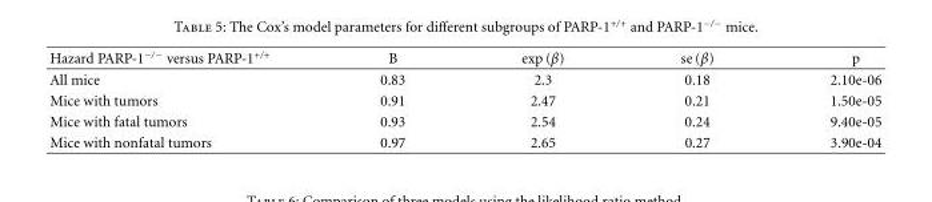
<table><thead><tr><td>Hazard PARP-1<sup>−/−</sup> versus PARP-1<sup>+/+</sup></td><td>B</td><td>exp (β)</td><td>se (β)</td><td>p</td></tr></thead><tbody><tr><td>All mice</td><td>0.83</td><td>2.3</td><td>0.18</td><td>2.10e-06</td></tr><tr><td>Mice with tumors</td><td>0.91</td><td>2.47</td><td>0.21</td><td>1.50e-05</td></tr><tr><td>Mice with fatal tumors</td><td>0.93</td><td>2.54</td><td>0.24</td><td>9.40e-05</td></tr><tr><td>Mice with nonfatal tumors</td><td>0.97</td><td>2.65</td><td>0.27</td><td>3.90e-04</td></tr></tbody></table>